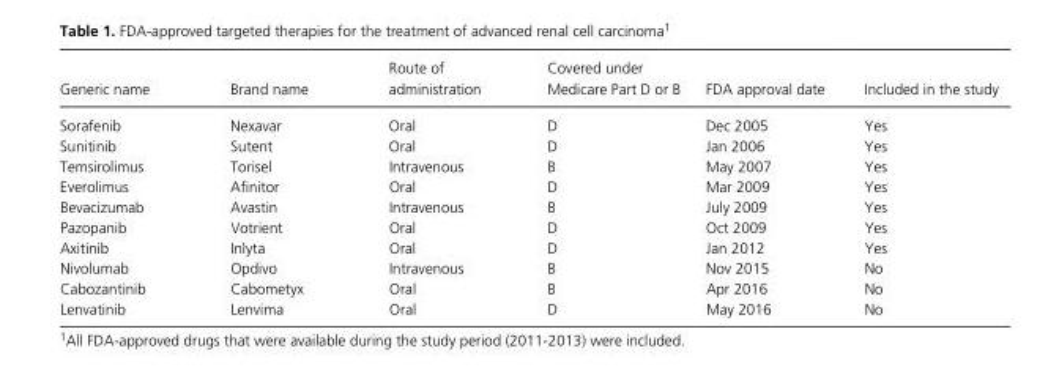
<table><thead><tr><td>Generic name</td><td>Brand name</td><td>Route of administration</td><td>Covered under Medicare Part D or B</td><td>FDA approval date</td><td>Included in the study</td></tr></thead><tbody><tr><td>Sorafenib</td><td>Nexavar</td><td>Oral</td><td>D</td><td>Dec 2005</td><td>Yes</td></tr><tr><td>Sunitinib</td><td>Sutent</td><td>Oral</td><td>D</td><td>Jan 2006</td><td>Yes</td></tr><tr><td>Temsirolimus</td><td>Torisel</td><td>Intravenous</td><td>B</td><td>May 2007</td><td>Yes</td></tr><tr><td>Everolimus</td><td>Afinitor</td><td>Oral</td><td>D</td><td>Mar 2009</td><td>Yes</td></tr><tr><td>Bevacizumab</td><td>Avastin</td><td>Intravenous</td><td>B</td><td>July 2009</td><td>Yes</td></tr><tr><td>Pazopanib</td><td>Votrient</td><td>Oral</td><td>D</td><td>Oct 2009</td><td>Yes</td></tr><tr><td>Axitinib</td><td>Inlyta</td><td>Oral</td><td>D</td><td>Jan 2012</td><td>Yes</td></tr><tr><td>Nivolumab</td><td>Opdivo</td><td>Intravenous</td><td>B</td><td>Nov 2015</td><td>No</td></tr><tr><td>Cabozantinib</td><td>Cabometyx</td><td>Oral</td><td>B</td><td>Apr 2016</td><td>No</td></tr><tr><td>Lenvatinib</td><td>Lenvima</td><td>Oral</td><td>D</td><td>May 2016</td><td>No</td></tr></tbody></table>